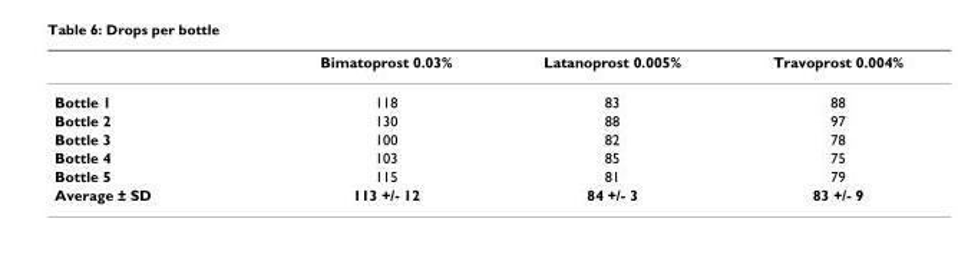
<table><thead><tr><td></td><td>Bimatoprost 0.03%</td><td>Latanoprost 0.005%</td><td>Travoprost 0.004%</td></tr></thead><tbody><tr><td>Bottle 1</td><td>118</td><td>83</td><td>88</td></tr><tr><td>Bottle 2</td><td>130</td><td>88</td><td>97</td></tr><tr><td>Bottle 3</td><td>100</td><td>82</td><td>78</td></tr><tr><td>Bottle 4</td><td>103</td><td>85</td><td>75</td></tr><tr><td>Bottle 5</td><td>115</td><td>81</td><td>79</td></tr><tr><td>Average ± SD</td><td>113 +/- 12</td><td>84 +/- 3</td><td>83 +/- 9</td></tr></tbody></table>